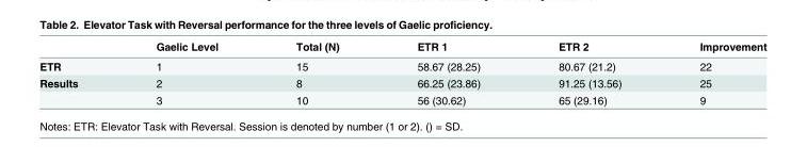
<table><thead><tr><td></td><td>Gaelic Level</td><td>Total (N)</td><td>ETR 1</td><td>ETR 2</td><td>Improvement</td></tr></thead><tbody><tr><td>ETR</td><td>1</td><td>15</td><td>58.67 (28.25)</td><td>80.67 (21.2)</td><td>22</td></tr><tr><td rowspan="2">Results</td><td>2</td><td>8</td><td>66.25 (23.86)</td><td>91.25 (13.56)</td><td>25</td></tr><tr><td>3</td><td>10</td><td>56 (30.62)</td><td>65 (29.16)</td><td>9</td></tr></tbody></table>